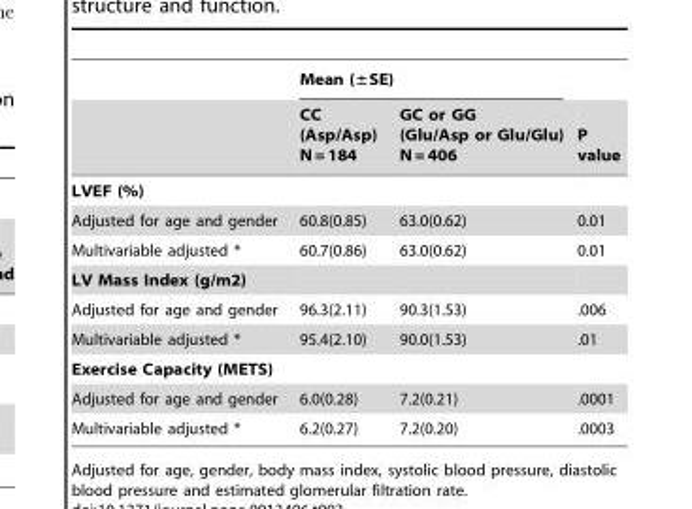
<table><thead><tr><td rowspan="2"></td><td colspan="2">Mean (±SE)</td><td rowspan="2">P value</td></tr><tr><td>CC (Asp/Asp) N = 184</td><td>GC or GG (Glu/Asp or Glu/Glu) N = 406</td></tr></thead><tbody><tr><td colspan="4">LVEF (%)</td></tr><tr><td>Adjusted for age and gender</td><td>60.8(0.85)</td><td>63.0(0.62)</td><td>0.01</td></tr><tr><td>Multivariable adjusted *</td><td>60.7(0.86)</td><td>63.0(0.62)</td><td>0.01</td></tr><tr><td colspan="4">LV Mass Index (g/m2)</td></tr><tr><td>Adjusted for age and gender</td><td>96.3(2.11)</td><td>90.3(1.53)</td><td>.006</td></tr><tr><td>Multivariable adjusted *</td><td>95.4(2.10)</td><td>90.0(1.53)</td><td>.01</td></tr><tr><td colspan="4">Exercise Capacity (METS)</td></tr><tr><td>Adjusted for age and gender</td><td>6.0(0.28)</td><td>7.2(0.21)</td><td>.0001</td></tr><tr><td>Multivariable adjusted *</td><td>6.2(0.27)</td><td>7.2(0.20)</td><td>.0003</td></tr></tbody></table>